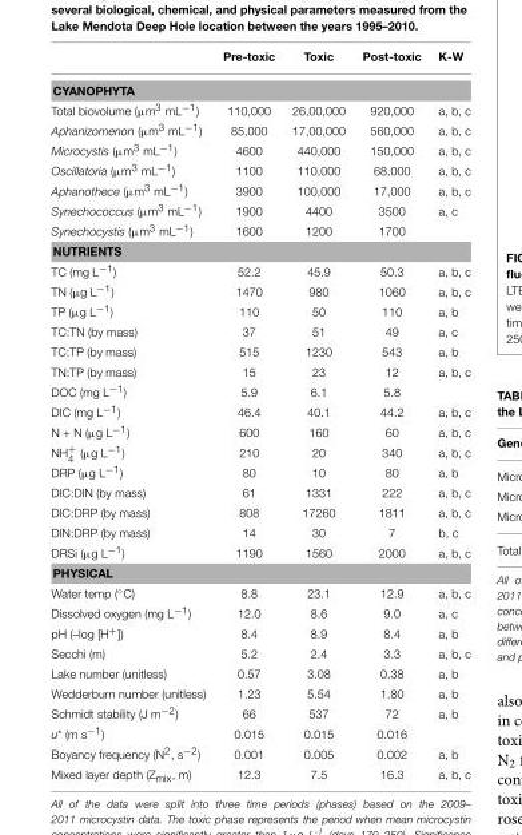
<table><thead><tr><td></td><td>Pre-toxic</td><td>Toxic</td><td>Post-toxic</td><td>K-W</td></tr></thead><tbody><tr><td colspan="5">CYANOPHYTA</td></tr><tr><td>Total biovolume (µm<sup>3</sup> mL<sup>−1</sup>)</td><td>110,000</td><td>26,00,000</td><td>920,000</td><td>a, b, c</td></tr><tr><td>Aphanizomenon (µm<sup>3</sup> mL<sup>−1</sup>)</td><td>85,000</td><td>17,00,000</td><td>560,000</td><td>a, b, c</td></tr><tr><td>Microcystis (µm<sup>3</sup> mL<sup>−1</sup>)</td><td>4600</td><td>440,000</td><td>150,000</td><td>a, b, c</td></tr><tr><td>Oscillatoria (µm<sup>3</sup> mL<sup>−1</sup>)</td><td>1100</td><td>110,000</td><td>68,000</td><td>a, b, c</td></tr><tr><td>Aphanothece (µm<sup>3</sup> mL<sup>−1</sup>)</td><td>3900</td><td>100,000</td><td>17,000</td><td>a, b, c</td></tr><tr><td>Synechococcus (µm<sup>3</sup> mL<sup>−1</sup>)</td><td>1900</td><td>4400</td><td>3500</td><td>a, c</td></tr><tr><td>Synechocystis (µm<sup>3</sup> mL<sup>−1</sup>)</td><td>1600</td><td>1200</td><td>1700</td><td></td></tr><tr><td colspan="5">NUTRIENTS</td></tr><tr><td>TC (mg L<sup>−1</sup>)</td><td>52.2</td><td>45.9</td><td>50.3</td><td>a, b, c</td></tr><tr><td>TN (µg L<sup>−1</sup>)</td><td>1470</td><td>980</td><td>1060</td><td>a, b, c</td></tr><tr><td>TP (µg L<sup>−1</sup>)</td><td>110</td><td>50</td><td>110</td><td>a, b</td></tr><tr><td>TC:TN (by mass)</td><td>37</td><td>51</td><td>49</td><td>a, c</td></tr><tr><td>TC:TP (by mass)</td><td>515</td><td>1230</td><td>543</td><td>a, b</td></tr><tr><td>TN:TP (by mass)</td><td>15</td><td>23</td><td>12</td><td>a, b, c</td></tr><tr><td>DOC (mg L<sup>−1</sup>)</td><td>5.9</td><td>6.1</td><td>5.8</td><td></td></tr><tr><td>DIC (mg L<sup>−1</sup>)</td><td>46.4</td><td>40.1</td><td>44.2</td><td>a, b, c</td></tr><tr><td>N + N (µg L<sup>−1</sup>)</td><td>600</td><td>160</td><td>60</td><td>a, b, c</td></tr><tr><td>NH<sup>+</sup> <sub>4</sub> (µg L<sup>−1</sup>)</td><td>210</td><td>20</td><td>340</td><td>a, b, c</td></tr><tr><td>DRP (µg L<sup>−1</sup>)</td><td>80</td><td>10</td><td>80</td><td>a, b</td></tr><tr><td>DIC:DIN (by mass)</td><td>61</td><td>1331</td><td>222</td><td>a, b, c</td></tr><tr><td>DIC:DRP (by mass)</td><td>808</td><td>17260</td><td>1811</td><td>a, b, c</td></tr><tr><td>DIN:DRP (by mass)</td><td>14</td><td>30</td><td>7</td><td>b, c</td></tr><tr><td>DRSi (µg L<sup>−1</sup>)</td><td>1190</td><td>1560</td><td>2000</td><td>a, b, c</td></tr><tr><td colspan="5">PHYSICAL</td></tr><tr><td>Water temp (◦C)</td><td>8.8</td><td>23.1</td><td>12.9</td><td>a, b, c</td></tr><tr><td>Dissolved oxygen (mg L<sup>−1</sup>)</td><td>12.0</td><td>8.6</td><td>9.0</td><td>a, c</td></tr><tr><td>pH (–log [H<sup>+</sup>])</td><td>8.4</td><td>8.9</td><td>8.4</td><td>a, b</td></tr><tr><td>Secchi (m)</td><td>5.2</td><td>2.4</td><td>3.3</td><td>a, b, c</td></tr><tr><td>Lake number (unitless)</td><td>0.57</td><td>3.08</td><td>0.38</td><td>a, b</td></tr><tr><td>Wedderburn number (unitless)</td><td>1.23</td><td>5.54</td><td>1.80</td><td>a, b</td></tr><tr><td>Schmidt stability (J m<sup>−2</sup>)</td><td>66</td><td>537</td><td>72</td><td>a, b</td></tr><tr><td>u* (m s<sup>−1</sup>)</td><td>0.015</td><td>0.015</td><td>0.016</td><td></td></tr><tr><td>Boyancy frequency (N<sup>2</sup>, s<sup>−2</sup>)</td><td>0.001</td><td>0.005</td><td>0.002</td><td>a, b</td></tr><tr><td>Mixed layer depth (Z<sub>mix</sub>, m)</td><td>12.3</td><td>7.5</td><td>16.3</td><td>a, b, c</td></tr></tbody></table>